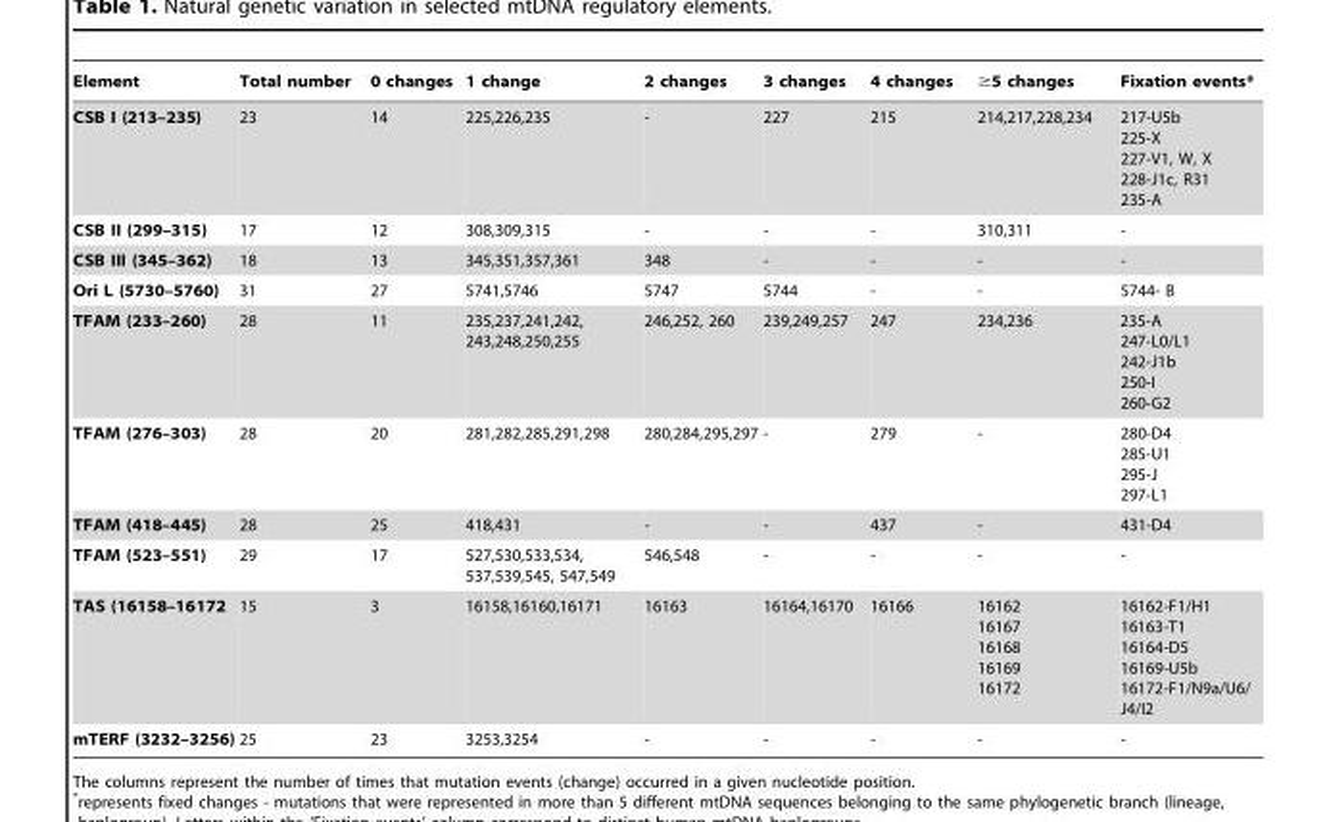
<table><thead><tr><td>Element</td><td>Total number</td><td>0 changes</td><td>1 change</td><td>2 changes</td><td>3 changes</td><td>4 changes</td><td>≥5 changes</td><td>Fixation events*</td></tr></thead><tbody><tr><td>CSB I (213–235)</td><td>23</td><td>14</td><td>225,226,235</td><td>-</td><td>227</td><td>215</td><td>214,217,228,234</td><td>217-U5b 225-X 227-V1, W, X 228-J1c, R31 235-A</td></tr><tr><td>CSB II (299–315)</td><td>17</td><td>12</td><td>308,309,315</td><td>-</td><td>-</td><td>-</td><td>310,311</td><td>-</td></tr><tr><td>CSB III (345–362)</td><td>18</td><td>13</td><td>345,351,357,361</td><td>348</td><td>-</td><td>-</td><td>-</td><td>-</td></tr><tr><td>Ori L (5730–5760)</td><td>31</td><td>27</td><td>5741,5746</td><td>5747</td><td>5744</td><td>-</td><td>-</td><td>5744- B</td></tr><tr><td>TFAM (233–260)</td><td>28</td><td>11</td><td>235,237,241,242, 243,248,250,255</td><td>246,252, 260</td><td>239,249,257</td><td>247</td><td>234,236</td><td>235-A 247-L0/L1 242-J1b 250-I 260-G2</td></tr><tr><td>TFAM (276–303)</td><td>28</td><td>20</td><td>281,282,285,291,298</td><td>280,284,295,297</td><td>-</td><td>279</td><td>-</td><td>280-D4 285-U1 295-J 297-L1</td></tr><tr><td>TFAM (418–445)</td><td>28</td><td>25</td><td>418,431</td><td>-</td><td>-</td><td>437</td><td>-</td><td>431-D4</td></tr><tr><td>TFAM (523–551)</td><td>29</td><td>17</td><td>527,530,533,534, 537,539,545, 547,549</td><td>546,548</td><td>-</td><td>-</td><td>-</td><td>-</td></tr><tr><td>TAS (16158–16172</td><td>15</td><td>3</td><td>16158,16160,16171</td><td>16163</td><td>16164,16170</td><td>16166</td><td>16162 16167 16168 16169 16172</td><td>16162-F1/H1 16163-T1 16164-D5 16169-U5b 16172-F1/N9a/U6/ J4/I2</td></tr><tr><td>mTERF (3232–3256)</td><td>25</td><td>23</td><td>3253,3254</td><td>-</td><td>-</td><td>-</td><td>-</td><td>-</td></tr></tbody></table>